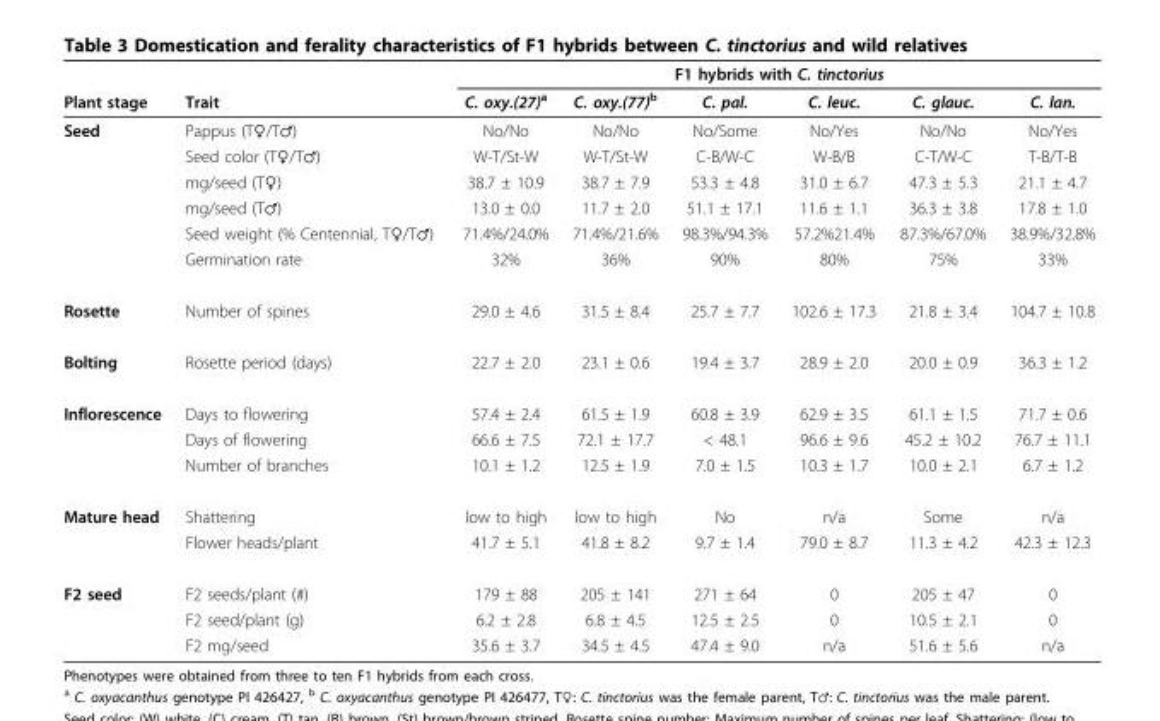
<table><thead><tr><td rowspan="2">Plant stage</td><td rowspan="2">Trait</td><td colspan="6">F1 hybrids with C. tinctorius</td></tr><tr><td>C. oxy.(27)<sup>a</sup></td><td>C. oxy.(77)<sup>b</sup></td><td>C. pal.</td><td>C. leuc.</td><td>C. glauc.</td><td>C. lan.</td></tr></thead><tbody><tr><td rowspan="6">Seed</td><td>Pappus (T♀/T♂)</td><td>No/No</td><td>No/No</td><td>No/Some</td><td>No/Yes</td><td>No/No</td><td>No/Yes</td></tr><tr><td>Seed color (T♀/T♂)</td><td>W-T/St-W</td><td>W-T/St-W</td><td>C-B/W-C</td><td>W-B/B</td><td>C-T/W-C</td><td>T-B/T-B</td></tr><tr><td>mg/seed (T♀)</td><td>38.7 ± 10.9</td><td>38.7 ± 7.9</td><td>53.3 ± 4.8</td><td>31.0 ± 6.7</td><td>47.3 ± 5.3</td><td>21.1 ± 4.7</td></tr><tr><td>mg/seed (T♂)</td><td>13.0 ± 0.0</td><td>11.7 ± 2.0</td><td>51.1 ± 17.1</td><td>11.6 ± 1.1</td><td>36.3 ± 3.8</td><td>17.8 ± 1.0</td></tr><tr><td>Seed weight (% Centennial, T♀/T♂)</td><td>71.4%/24.0%</td><td>71.4%/21.6%</td><td>98.3%/94.3%</td><td>57.2%21.4%</td><td>87.3%/67.0%</td><td>38.9%/32.8%</td></tr><tr><td>Germination rate</td><td>32%</td><td>36%</td><td>90%</td><td>80%</td><td>75%</td><td>33%</td></tr><tr><td>Rosette</td><td>Number of spines</td><td>29.0 ± 4.6</td><td>31.5 ± 8.4</td><td>25.7 ± 7.7</td><td>102.6 ± 17.3</td><td>21.8 ± 3.4</td><td>104.7 ± 10.8</td></tr><tr><td>Bolting</td><td>Rosette period (days)</td><td>22.7 ± 2.0</td><td>23.1 ± 0.6</td><td>19.4 ± 3.7</td><td>28.9 ± 2.0</td><td>20.0 ± 0.9</td><td>36.3 ± 1.2</td></tr><tr><td rowspan="3">Inflorescence</td><td>Days to flowering</td><td>57.4 ± 2.4</td><td>61.5 ± 1.9</td><td>60.8 ± 3.9</td><td>62.9 ± 3.5</td><td>61.1 ± 1.5</td><td>71.7 ± 0.6</td></tr><tr><td>Days of flowering</td><td>66.6 ± 7.5</td><td>72.1 ± 17.7</td><td>&lt; 48.1</td><td>96.6 ± 9.6</td><td>45.2 ± 10.2</td><td>76.7 ± 11.1</td></tr><tr><td>Number of branches</td><td>10.1 ± 1.2</td><td>12.5 ± 1.9</td><td>7.0 ± 1.5</td><td>10.3 ± 1.7</td><td>10.0 ± 2.1</td><td>6.7 ± 1.2</td></tr><tr><td rowspan="2">Mature head</td><td>Shattering</td><td>low to high</td><td>low to high</td><td>No</td><td>n/a</td><td>Some</td><td>n/a</td></tr><tr><td>Flower heads/plant</td><td>41.7 ± 5.1</td><td>41.8 ± 8.2</td><td>9.7 ± 1.4</td><td>79.0 ± 8.7</td><td>11.3 ± 4.2</td><td>42.3 ± 12.3</td></tr><tr><td rowspan="3">F2 seed</td><td>F2 seeds/plant (#)</td><td>179 ± 88</td><td>205 ± 141</td><td>271 ± 64</td><td>0</td><td>205 ± 47</td><td>0</td></tr><tr><td>F2 seed/plant (g)</td><td>6.2 ± 2.8</td><td>6.8 ± 4.5</td><td>12.5 ± 2.5</td><td>0</td><td>10.5 ± 2.1</td><td>0</td></tr><tr><td>F2 mg/seed</td><td>35.6 ± 3.7</td><td>34.5 ± 4.5</td><td>47.4 ± 9.0</td><td>n/a</td><td>51.6 ± 5.6</td><td>n/a</td></tr></tbody></table>